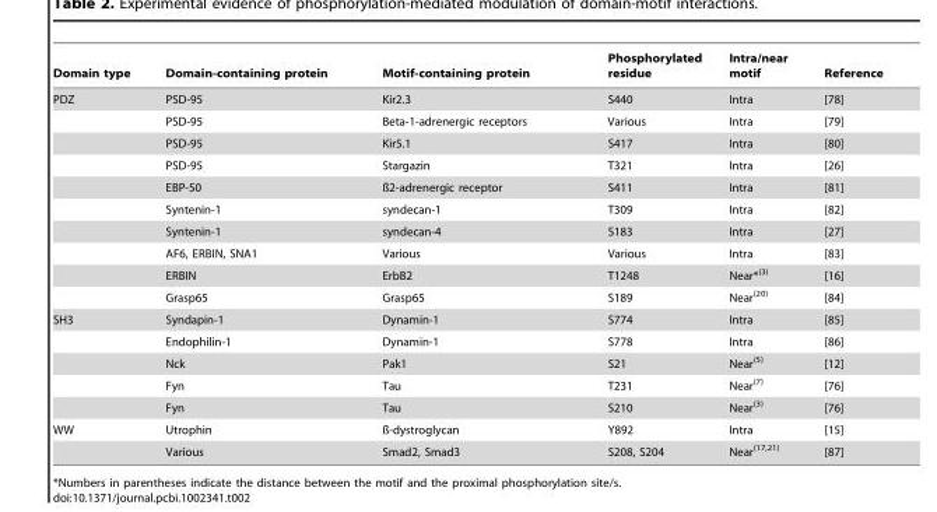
<table><thead><tr><td>Domain type</td><td>Domain-containing protein</td><td>Motif-containing protein</td><td>Phosphorylated residue</td><td>Intra/near motif</td><td>Reference</td></tr></thead><tbody><tr><td rowspan="10">PDZ</td><td>PSD-95</td><td>Kir2.3</td><td>S440</td><td>Intra</td><td>[78]</td></tr><tr><td>PSD-95</td><td>Beta-1-adrenergic receptors</td><td>Various</td><td>Intra</td><td>[79]</td></tr><tr><td>PSD-95</td><td>Kir5.1</td><td>S417</td><td>Intra</td><td>[80]</td></tr><tr><td>PSD-95</td><td>Stargazin</td><td>T321</td><td>Intra</td><td>[26]</td></tr><tr><td>EBP-50</td><td>ß2-adrenergic receptor</td><td>S411</td><td>Intra</td><td>[81]</td></tr><tr><td>Syntenin-1</td><td>syndecan-1</td><td>T309</td><td>Intra</td><td>[82]</td></tr><tr><td>Syntenin-1</td><td>syndecan-4</td><td>S183</td><td>Intra</td><td>[27]</td></tr><tr><td>AF6, ERBIN, SNA1</td><td>Various</td><td>Various</td><td>Intra</td><td>[83]</td></tr><tr><td>ERBIN</td><td>ErbB2</td><td>T1248</td><td>Near*<sup>(3)</sup></td><td>[16]</td></tr><tr><td>Grasp65</td><td>Grasp65</td><td>S189</td><td>Near<sup>(20)</sup></td><td>[84]</td></tr><tr><td rowspan="5">SH3</td><td>Syndapin-1</td><td>Dynamin-1</td><td>S774</td><td>Intra</td><td>[85]</td></tr><tr><td>Endophilin-1</td><td>Dynamin-1</td><td>S778</td><td>Intra</td><td>[86]</td></tr><tr><td>Nck</td><td>Pak1</td><td>S21</td><td>Near<sup>(5)</sup></td><td>[12]</td></tr><tr><td>Fyn</td><td>Tau</td><td>T231</td><td>Near<sup>(7)</sup></td><td>[76]</td></tr><tr><td>Fyn</td><td>Tau</td><td>S210</td><td>Near<sup>(3)</sup></td><td>[76]</td></tr><tr><td rowspan="2">WW</td><td>Utrophin</td><td>ß-dystroglycan</td><td>Y892</td><td>Intra</td><td>[15]</td></tr><tr><td>Various</td><td>Smad2, Smad3</td><td>S208, S204</td><td>Near<sup>(17,21)</sup></td><td>[87]</td></tr></tbody></table>